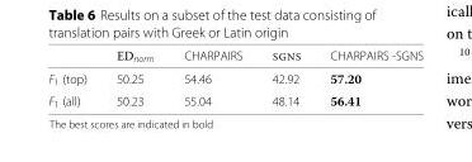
<table><thead><tr><td></td><td>ED<sub>norm</sub></td><td>CHARPAIRS</td><td>SGNS</td><td>CHARPAIRS -SGNS</td></tr></thead><tbody><tr><td>F<sub>1</sub> (top)</td><td>50.25</td><td>54.46</td><td>42.92</td><td>57.20</td></tr><tr><td>F<sub>1</sub> (all)</td><td>50.23</td><td>55.04</td><td>48.14</td><td>56.41</td></tr></tbody></table>